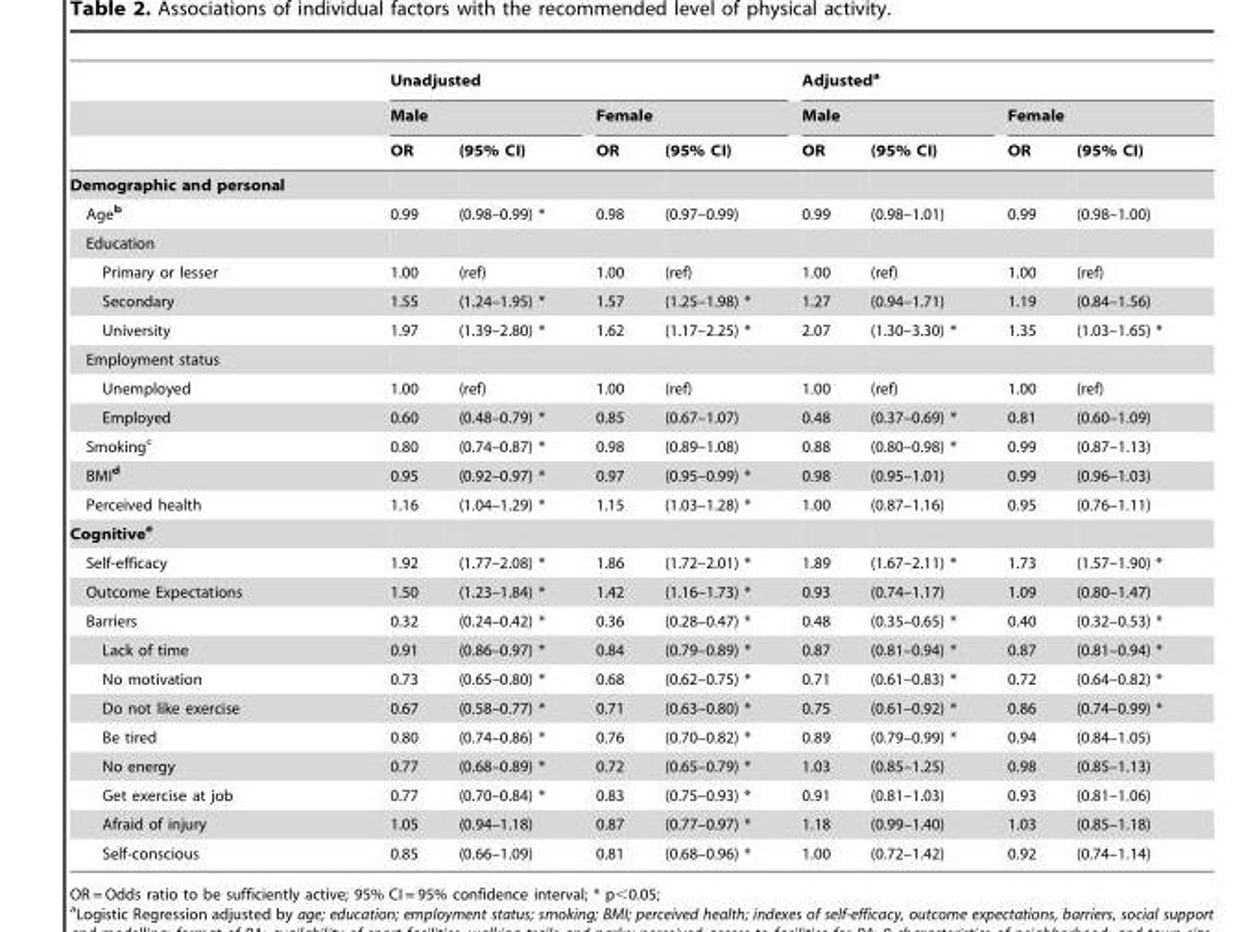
<table><thead><tr><td rowspan="3"></td><td colspan="4">Unadjusted</td><td colspan="4">Adjusted<sup>a</sup></td></tr><tr><td colspan="2">Male</td><td colspan="2">Female</td><td colspan="2">Male</td><td colspan="2">Female</td></tr><tr><td>OR</td><td>(95% CI)</td><td>OR</td><td>(95% CI)</td><td>OR</td><td>(95% CI)</td><td>OR</td><td>(95% CI)</td></tr></thead><tbody><tr><td colspan="9">Demographic and personal</td></tr><tr><td>Age<sup>b</sup></td><td>0.99</td><td>(0.98–0.99) *</td><td>0.98</td><td>(0.97–0.99)</td><td>0.99</td><td>(0.98–1.01)</td><td>0.99</td><td>(0.98–1.00)</td></tr><tr><td colspan="9">Education</td></tr><tr><td>Primary or lesser</td><td>1.00</td><td>(ref)</td><td>1.00</td><td>(ref)</td><td>1.00</td><td>(ref)</td><td>1.00</td><td>(ref)</td></tr><tr><td>Secondary</td><td>1.55</td><td>(1.24–1.95) *</td><td>1.57</td><td>(1.25–1.98) *</td><td>1.27</td><td>(0.94–1.71)</td><td>1.19</td><td>(0.84–1.56)</td></tr><tr><td>University</td><td>1.97</td><td>(1.39–2.80) *</td><td>1.62</td><td>(1.17–2.25) *</td><td>2.07</td><td>(1.30–3.30) *</td><td>1.35</td><td>(1.03–1.65) *</td></tr><tr><td colspan="9">Employment status</td></tr><tr><td>Unemployed</td><td>1.00</td><td>(ref)</td><td>1.00</td><td>(ref)</td><td>1.00</td><td>(ref)</td><td>1.00</td><td>(ref)</td></tr><tr><td>Employed</td><td>0.60</td><td>(0.48–0.79) *</td><td>0.85</td><td>(0.67–1.07)</td><td>0.48</td><td>(0.37–0.69) *</td><td>0.81</td><td>(0.60–1.09)</td></tr><tr><td>Smoking<sup>c</sup></td><td>0.80</td><td>(0.74–0.87) *</td><td>0.98</td><td>(0.89–1.08)</td><td>0.88</td><td>(0.80–0.98) *</td><td>0.99</td><td>(0.87–1.13)</td></tr><tr><td>BMI<sup>d</sup></td><td>0.95</td><td>(0.92–0.97) *</td><td>0.97</td><td>(0.95–0.99) *</td><td>0.98</td><td>(0.95–1.01)</td><td>0.99</td><td>(0.96–1.03)</td></tr><tr><td>Perceived health</td><td>1.16</td><td>(1.04–1.29) *</td><td>1.15</td><td>(1.03–1.28) *</td><td>1.00</td><td>(0.87–1.16)</td><td>0.95</td><td>(0.76–1.11)</td></tr><tr><td colspan="9">Cognitivee</td></tr><tr><td>Self-efficacy</td><td>1.92</td><td>(1.77–2.08) *</td><td>1.86</td><td>(1.72–2.01) *</td><td>1.89</td><td>(1.67–2.11) *</td><td>1.73</td><td>(1.57–1.90) *</td></tr><tr><td>Outcome Expectations</td><td>1.50</td><td>(1.23–1.84) *</td><td>1.42</td><td>(1.16–1.73) *</td><td>0.93</td><td>(0.74–1.17)</td><td>1.09</td><td>(0.80–1.47)</td></tr><tr><td>Barriers</td><td>0.32</td><td>(0.24–0.42) *</td><td>0.36</td><td>(0.28–0.47) *</td><td>0.48</td><td>(0.35–0.65) *</td><td>0.40</td><td>(0.32–0.53) *</td></tr><tr><td>Lack of time</td><td>0.91</td><td>(0.86–0.97) *</td><td>0.84</td><td>(0.79–0.89) *</td><td>0.87</td><td>(0.81–0.94) *</td><td>0.87</td><td>(0.81–0.94) *</td></tr><tr><td>No motivation</td><td>0.73</td><td>(0.65–0.80) *</td><td>0.68</td><td>(0.62–0.75) *</td><td>0.71</td><td>(0.61–0.83) *</td><td>0.72</td><td>(0.64–0.82) *</td></tr><tr><td>Do not like exercise</td><td>0.67</td><td>(0.58–0.77) *</td><td>0.71</td><td>(0.63–0.80) *</td><td>0.75</td><td>(0.61–0.92) *</td><td>0.86</td><td>(0.74–0.99) *</td></tr><tr><td>Be tired</td><td>0.80</td><td>(0.74–0.86) *</td><td>0.76</td><td>(0.70–0.82) *</td><td>0.89</td><td>(0.79–0.99) *</td><td>0.94</td><td>(0.84–1.05)</td></tr><tr><td>No energy</td><td>0.77</td><td>(0.68–0.89) *</td><td>0.72</td><td>(0.65–0.79) *</td><td>1.03</td><td>(0.85–1.25)</td><td>0.98</td><td>(0.85–1.13)</td></tr><tr><td>Get exercise at job</td><td>0.77</td><td>(0.70–0.84) *</td><td>0.83</td><td>(0.75–0.93) *</td><td>0.91</td><td>(0.81–1.03)</td><td>0.93</td><td>(0.81–1.06)</td></tr><tr><td>Afraid of injury</td><td>1.05</td><td>(0.94–1.18)</td><td>0.87</td><td>(0.77–0.97) *</td><td>1.18</td><td>(0.99–1.40)</td><td>1.03</td><td>(0.85–1.18)</td></tr><tr><td>Self-conscious</td><td>0.85</td><td>(0.66–1.09)</td><td>0.81</td><td>(0.68–0.96) *</td><td>1.00</td><td>(0.72–1.42)</td><td>0.92</td><td>(0.74–1.14)</td></tr></tbody></table>